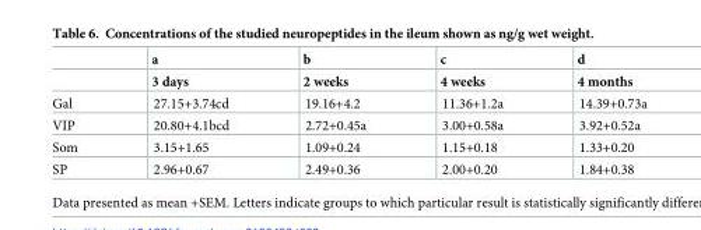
<table><thead><tr><td rowspan="2"></td><td rowspan="2">a 3 days</td><td rowspan="2">b 2 weeks</td><td rowspan="2">c 4 weeks</td><td rowspan="2">d 4 months</td></tr><tr></tr></thead><tbody><tr><td>Gal</td><td>27.15+3.74cd</td><td>19.16+4.2</td><td>11.36+1.2a</td><td>14.39+0.73a</td></tr><tr><td>VIP</td><td>20.80+4.1bcd</td><td>2.72+0.45a</td><td>3.00+0.58a</td><td>3.92+0.52a</td></tr><tr><td>Som</td><td>3.15+1.65</td><td>1.09+0.24</td><td>1.15+0.18</td><td>1.33+0.20</td></tr><tr><td>SP</td><td>2.96+0.67</td><td>2.49+0.36</td><td>2.00+0.20</td><td>1.84+0.38</td></tr></tbody></table>